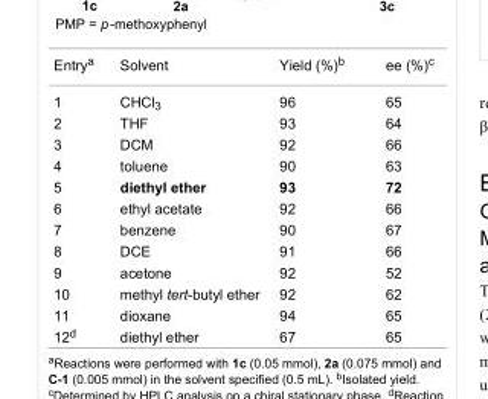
<table><tbody><tr><td>Entry<sup>a</sup></td><td>Solvent</td><td>Yield (%)<sup>b</sup></td><td>ee (%)<sup>c</sup></td></tr><tr><td>1</td><td>CHCl<sub>3</sub></td><td>96</td><td>65</td></tr><tr><td>2</td><td>THF</td><td>93</td><td>64</td></tr><tr><td>3</td><td>DCM</td><td>92</td><td>66</td></tr><tr><td>4</td><td>toluene</td><td>90</td><td>63</td></tr><tr><td>5</td><td>diethyl ether</td><td>93</td><td>72</td></tr><tr><td>6</td><td>ethyl acetate</td><td>92</td><td>66</td></tr><tr><td>7</td><td>benzene</td><td>90</td><td>67</td></tr><tr><td>8</td><td>DCE</td><td>91</td><td>66</td></tr><tr><td>9</td><td>acetone</td><td>92</td><td>52</td></tr><tr><td>10</td><td>methyl tert-butyl ether</td><td>92</td><td>62</td></tr><tr><td>11</td><td>dioxane</td><td>94</td><td>65</td></tr><tr><td>12<sup>d</sup></td><td>diethyl ether</td><td>67</td><td>65</td></tr></tbody></table>